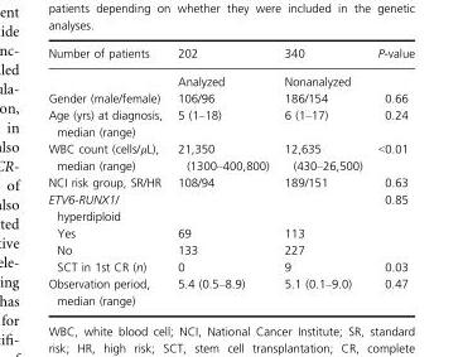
<table><thead><tr><td>Number of patients</td><td>202</td><td>340</td><td>P-value</td></tr></thead><tbody><tr><td></td><td>Analyzed</td><td>Nonanalyzed</td><td></td></tr><tr><td>Gender (male/female)</td><td>106/96</td><td>186/154</td><td>0.66</td></tr><tr><td>Age (yrs) at diagnosis, median (range)</td><td>5 (1–18)</td><td>6 (1–17)</td><td>0.24</td></tr><tr><td>WBC count (cells/μL), median (range)</td><td>21,350 (1300–400,800)</td><td>12,635 (430–26,500)</td><td>&lt;0.01</td></tr><tr><td>NCI risk group, SR/HR</td><td>108/94</td><td>189/151</td><td>0.63</td></tr><tr><td>ETV6-RUNX1/ hyperdiploid</td><td></td><td></td><td>0.85</td></tr><tr><td>Yes</td><td>69</td><td>113</td><td></td></tr><tr><td>No</td><td>133</td><td>227</td><td></td></tr><tr><td>SCT in 1st CR (n)</td><td>0</td><td>9</td><td>0.03</td></tr><tr><td>Observation period, median (range)</td><td>5.4 (0.5–8.9)</td><td>5.1 (0.1–9.0)</td><td>0.47</td></tr></tbody></table>